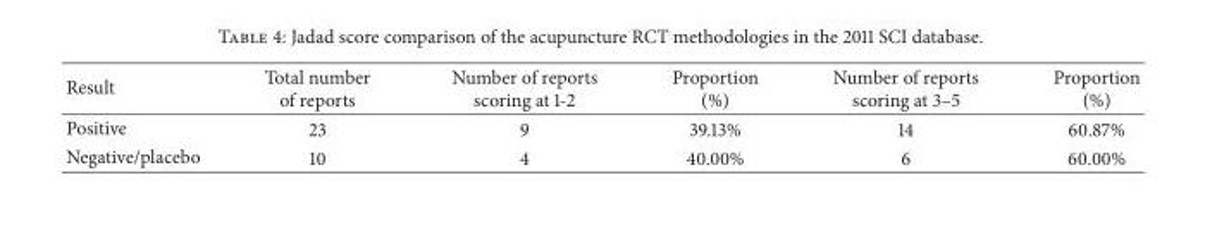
<table><thead><tr><td>Result</td><td>Total number of reports</td><td>Number of reports scoring at 1-2</td><td>Proportion (%)</td><td>Number of reports scoring at 3–5</td><td>Proportion (%)</td></tr></thead><tbody><tr><td>Positive</td><td>23</td><td>9</td><td>39.13%</td><td>14</td><td>60.87%</td></tr><tr><td>Negative/placebo</td><td>10</td><td>4</td><td>40.00%</td><td>6</td><td>60.00%</td></tr></tbody></table>